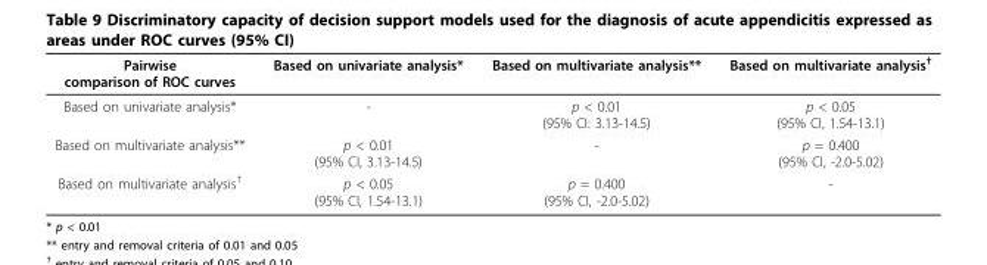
<table><thead><tr><td>Pairwise comparison of ROC curves</td><td>Based on univariate analysis*</td><td>Based on multivariate analysis**</td><td>Based on multivariate analysis<sup>†</sup></td></tr></thead><tbody><tr><td>Based on univariate analysis*</td><td>-</td><td>p &lt; 0.01 (95% CI: 3.13-14.5)</td><td>p &lt; 0.05 (95% CI, 1.54-13.1)</td></tr><tr><td>Based on multivariate analysis**</td><td>p &lt; 0.01 (95% CI, 3.13-14.5)</td><td>-</td><td>p = 0.400 (95% CI, -2.0-5.02)</td></tr><tr><td>Based on multivariate analysis<sup>†</sup></td><td>p &lt; 0.05 (95% CI, 1.54-13.1)</td><td>p = 0.400 (95% CI, -2.0-5.02)</td><td>-</td></tr></tbody></table>